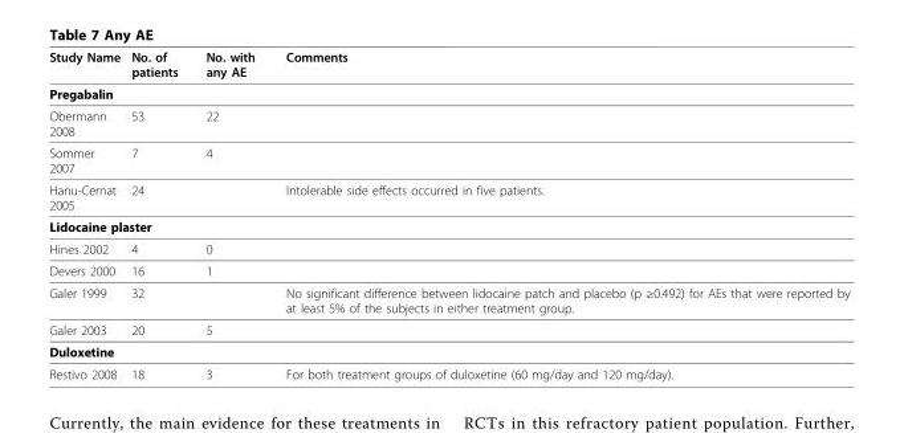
<table><thead><tr><td>Study Name</td><td>No. of patients</td><td>No. with any AE</td><td>Comments</td></tr></thead><tbody><tr><td colspan="4">Pregabalin</td></tr><tr><td>Obermann 2008</td><td>53</td><td>22</td><td></td></tr><tr><td>Sommer 2007</td><td>7</td><td>4</td><td></td></tr><tr><td>Hanu-Cernat 2005</td><td>24</td><td></td><td>Intolerable side effects occurred in five patients.</td></tr><tr><td colspan="4">Lidocaine plaster</td></tr><tr><td>Hines 2002</td><td>4</td><td>0</td><td></td></tr><tr><td>Devers 2000</td><td>16</td><td>1</td><td></td></tr><tr><td>Galer 1999</td><td>32</td><td></td><td>No significant difference between lidocaine patch and placebo (p ≥0.492) for AEs that were reported by at least 5% of the subjects in either treatment group.</td></tr><tr><td>Galer 2003</td><td>20</td><td>5</td><td></td></tr><tr><td colspan="4">Duloxetine</td></tr><tr><td>Restivo 2008</td><td>18</td><td>3</td><td>For both treatment groups of duloxetine (60 mg/day and 120 mg/day).</td></tr></tbody></table>